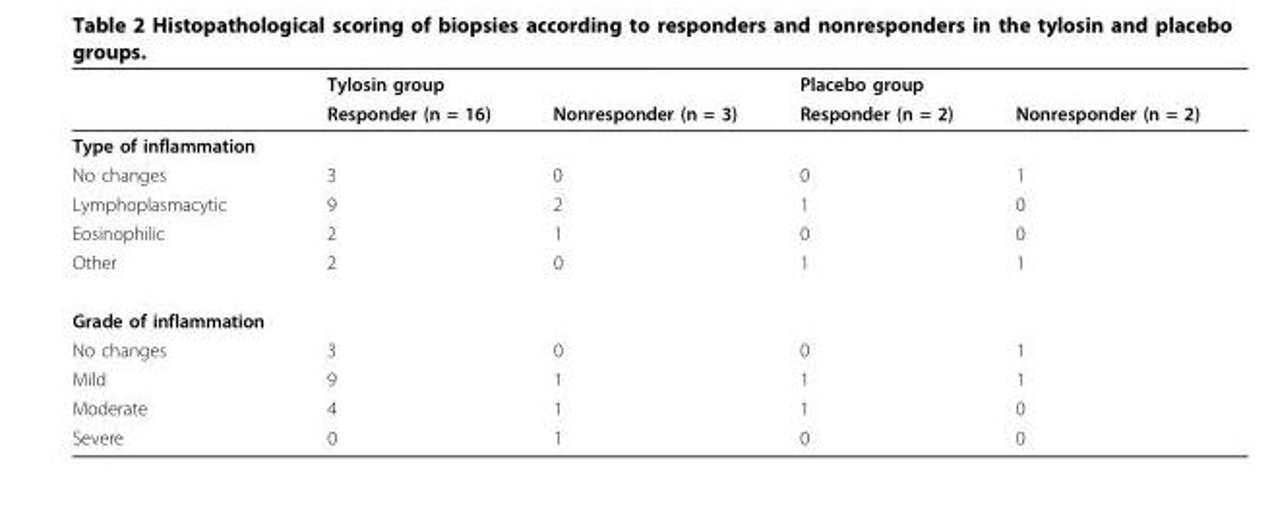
<table><thead><tr><td rowspan="2"></td><td colspan="2">Tylosin group</td><td colspan="2">Placebo group</td></tr><tr><td>Responder (n = 16)</td><td>Nonresponder (n = 3)</td><td>Responder (n = 2)</td><td>Nonresponder (n = 2)</td></tr></thead><tbody><tr><td colspan="5">Type of inflammation</td></tr><tr><td>No changes</td><td>3</td><td>0</td><td>0</td><td>1</td></tr><tr><td>Lymphoplasmacytic</td><td>9</td><td>2</td><td>1</td><td>0</td></tr><tr><td>Eosinophilic</td><td>2</td><td>1</td><td>0</td><td>0</td></tr><tr><td>Other</td><td>2</td><td>0</td><td>1</td><td>1</td></tr><tr><td colspan="5">Grade of inflammation</td></tr><tr><td>No changes</td><td>3</td><td>0</td><td>0</td><td>1</td></tr><tr><td>Mild</td><td>9</td><td>1</td><td>1</td><td>1</td></tr><tr><td>Moderate</td><td>4</td><td>1</td><td>1</td><td>0</td></tr><tr><td>Severe</td><td>0</td><td>1</td><td>0</td><td>0</td></tr></tbody></table>